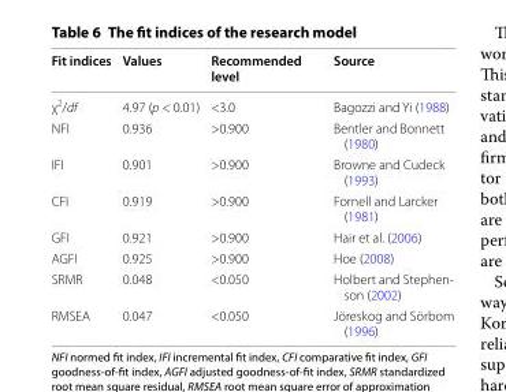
<table><thead><tr><td>Fit indices</td><td>Values</td><td>Recommended level</td><td>Source</td></tr></thead><tbody><tr><td>χ<sup>2</sup>/df</td><td>4.97 (p &lt; 0.01)</td><td>&lt;3.0</td><td>Bagozzi and Yi (1988)</td></tr><tr><td>NFI</td><td>0.936</td><td>&gt;0.900</td><td>Bentler and Bonnett (1980)</td></tr><tr><td>IFI</td><td>0.901</td><td>&gt;0.900</td><td>Browne and Cudeck (1993)</td></tr><tr><td>CFI</td><td>0.919</td><td>&gt;0.900</td><td>Fornell and Larcker (1981)</td></tr><tr><td>GFI</td><td>0.921</td><td>&gt;0.900</td><td>Hair et al. (2006)</td></tr><tr><td>AGFI</td><td>0.925</td><td>&gt;0.900</td><td>Hoe (2008)</td></tr><tr><td>SRMR</td><td>0.048</td><td>&lt;0.050</td><td>Holbert and Stephen‑ son (2002)</td></tr><tr><td>RMSEA</td><td>0.047</td><td>&lt;0.050</td><td>Jöreskog and Sörbom (1996)</td></tr></tbody></table>